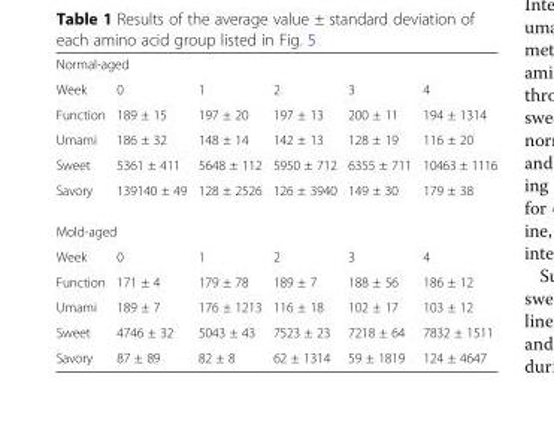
<table><tbody><tr><td colspan="6">Normal-aged</td></tr><tr><td>Week</td><td>0</td><td>1</td><td>2</td><td>3</td><td>4</td></tr><tr><td>Function</td><td>189 ± 15</td><td>197 ± 20</td><td>197 ± 13</td><td>200 ± 11</td><td>194 ± 1314</td></tr><tr><td>Umami</td><td>186 ± 32</td><td>148 ± 14</td><td>142 ± 13</td><td>128 ± 19</td><td>116 ± 20</td></tr><tr><td>Sweet</td><td>5361 ± 411</td><td>5648 ± 112</td><td>5950 ± 712</td><td>6355 ± 711</td><td>10463 ± 1116</td></tr><tr><td>Savory</td><td>139140 ± 49</td><td>128 ± 2526</td><td>126 ± 3940</td><td>149 ± 30</td><td>179 ± 38</td></tr><tr><td colspan="6">Mold-aged</td></tr><tr><td>Week</td><td>0</td><td>1</td><td>2</td><td>3</td><td>4</td></tr><tr><td>Function</td><td>171 ± 4</td><td>179 ± 78</td><td>189 ± 7</td><td>188 ± 56</td><td>186 ± 12</td></tr><tr><td>Umami</td><td>189 ± 7</td><td>176 ± 1213</td><td>116 ± 18</td><td>102 ± 17</td><td>103 ± 12</td></tr><tr><td>Sweet</td><td>4746 ± 32</td><td>5043 ± 43</td><td>7523 ± 23</td><td>7218 ± 64</td><td>7832 ± 1511</td></tr><tr><td>Savory</td><td>87 ± 89</td><td>82 ± 8</td><td>62 ± 1314</td><td>59 ± 1819</td><td>124 ± 4647</td></tr></tbody></table>